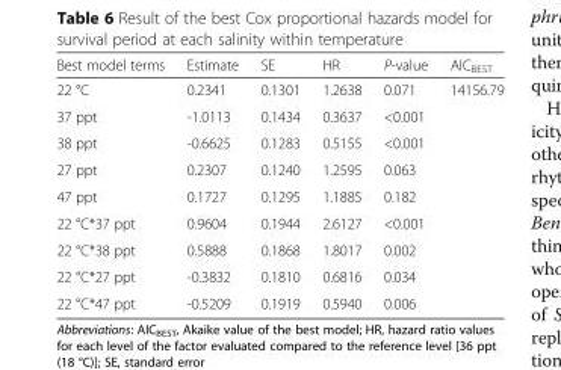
<table><thead><tr><td>Best model terms</td><td>Estimate</td><td>SE</td><td>HR</td><td>P-value</td><td>AIC<sub>BEST</sub></td></tr></thead><tbody><tr><td>22 °C</td><td>0.2341</td><td>0.1301</td><td>1.2638</td><td>0.071</td><td>14156.79</td></tr><tr><td>37 ppt</td><td>-1.0113</td><td>0.1434</td><td>0.3637</td><td>&lt;0.001</td><td></td></tr><tr><td>38 ppt</td><td>-0.6625</td><td>0.1283</td><td>0.5155</td><td>&lt;0.001</td><td></td></tr><tr><td>27 ppt</td><td>0.2307</td><td>0.1240</td><td>1.2595</td><td>0.063</td><td></td></tr><tr><td>47 ppt</td><td>0.1727</td><td>0.1295</td><td>1.1885</td><td>0.182</td><td></td></tr><tr><td>22 °C*37 ppt</td><td>0.9604</td><td>0.1944</td><td>2.6127</td><td>&lt;0.001</td><td></td></tr><tr><td>22 °C*38 ppt</td><td>0.5888</td><td>0.1868</td><td>1.8017</td><td>0.002</td><td></td></tr><tr><td>22 °C*27 ppt</td><td>-0.3832</td><td>0.1810</td><td>0.6816</td><td>0.034</td><td></td></tr><tr><td>22 °C*47 ppt</td><td>-0.5209</td><td>0.1919</td><td>0.5940</td><td>0.006</td><td></td></tr></tbody></table>